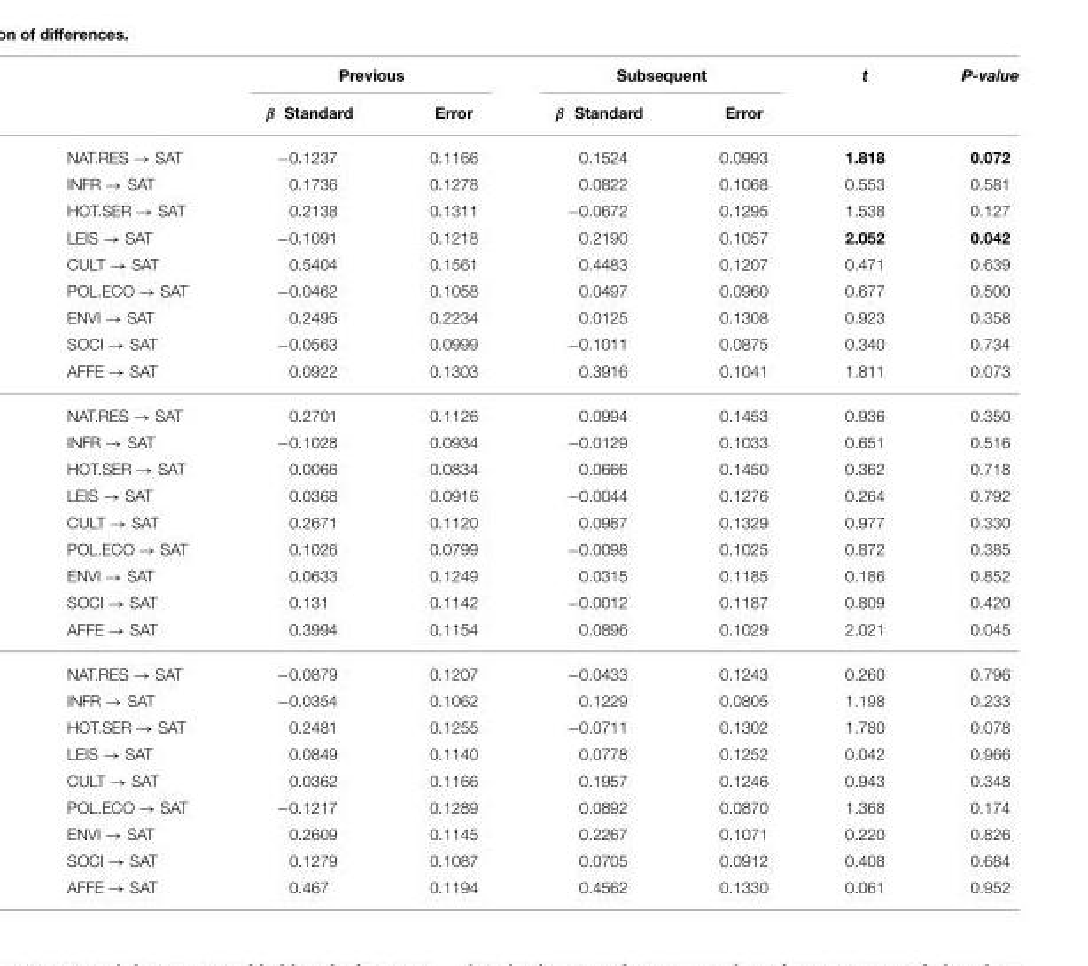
<table><thead><tr><td rowspan="2"></td><td colspan="2">Previous</td><td colspan="2">Subsequent</td><td rowspan="2">t</td><td rowspan="2">P-value</td></tr><tr><td>β Standard</td><td>Error</td><td>β Standard</td><td>Error</td></tr></thead><tbody><tr><td>NAT.RES → SAT</td><td>−0.1237</td><td>0.1166</td><td>0.1524</td><td>0.0993</td><td>1.818</td><td>0.072</td></tr><tr><td>INFR → SAT</td><td>0.1736</td><td>0.1278</td><td>0.0822</td><td>0.1068</td><td>0.553</td><td>0.581</td></tr><tr><td>HOT.SER → SAT</td><td>0.2138</td><td>0.1311</td><td>−0.0672</td><td>0.1295</td><td>1.538</td><td>0.127</td></tr><tr><td>LEIS → SAT</td><td>−0.1091</td><td>0.1218</td><td>0.2190</td><td>0.1057</td><td>2.052</td><td>0.042</td></tr><tr><td>CULT → SAT</td><td>0.5404</td><td>0.1561</td><td>0.4483</td><td>0.1207</td><td>0.471</td><td>0.639</td></tr><tr><td>POL.ECO → SAT</td><td>−0.0462</td><td>0.1058</td><td>0.0497</td><td>0.0960</td><td>0.677</td><td>0.500</td></tr><tr><td>ENVI → SAT</td><td>0.2495</td><td>0.2234</td><td>0.0125</td><td>0.1308</td><td>0.923</td><td>0.358</td></tr><tr><td>SOCI → SAT</td><td>−0.0563</td><td>0.0999</td><td>−0.1011</td><td>0.0875</td><td>0.340</td><td>0.734</td></tr><tr><td>AFFE → SAT</td><td>0.0922</td><td>0.1303</td><td>0.3916</td><td>0.1041</td><td>1.811</td><td>0.073</td></tr><tr><td>NAT.RES → SAT</td><td>0.2701</td><td>0.1126</td><td>0.0994</td><td>0.1453</td><td>0.936</td><td>0.350</td></tr><tr><td>INFR → SAT</td><td>−0.1028</td><td>0.0934</td><td>−0.0129</td><td>0.1033</td><td>0.651</td><td>0.516</td></tr><tr><td>HOT.SER → SAT</td><td>0.0066</td><td>0.0834</td><td>0.0666</td><td>0.1450</td><td>0.362</td><td>0.718</td></tr><tr><td>LEIS → SAT</td><td>0.0368</td><td>0.0916</td><td>−0.0044</td><td>0.1276</td><td>0.264</td><td>0.792</td></tr><tr><td>CULT → SAT</td><td>0.2671</td><td>0.1120</td><td>0.0987</td><td>0.1329</td><td>0.977</td><td>0.330</td></tr><tr><td>POL.ECO → SAT</td><td>0.1026</td><td>0.0799</td><td>−0.0098</td><td>0.1025</td><td>0.872</td><td>0.385</td></tr><tr><td>ENVI → SAT</td><td>0.0633</td><td>0.1249</td><td>0.0315</td><td>0.1185</td><td>0.186</td><td>0.852</td></tr><tr><td>SOCI → SAT</td><td>0.131</td><td>0.1142</td><td>−0.0012</td><td>0.1187</td><td>0.809</td><td>0.420</td></tr><tr><td>AFFE → SAT</td><td>0.3994</td><td>0.1154</td><td>0.0896</td><td>0.1029</td><td>2.021</td><td>0.045</td></tr><tr><td>NAT.RES → SAT</td><td>−0.0879</td><td>0.1207</td><td>−0.0433</td><td>0.1243</td><td>0.260</td><td>0.796</td></tr><tr><td>INFR → SAT</td><td>−0.0354</td><td>0.1062</td><td>0.1229</td><td>0.0805</td><td>1.198</td><td>0.233</td></tr><tr><td>HOT.SER → SAT</td><td>0.2481</td><td>0.1255</td><td>−0.0711</td><td>0.1302</td><td>1.780</td><td>0.078</td></tr><tr><td>LEIS → SAT</td><td>0.0849</td><td>0.1140</td><td>0.0778</td><td>0.1252</td><td>0.042</td><td>0.966</td></tr><tr><td>CULT → SAT</td><td>0.0362</td><td>0.1166</td><td>0.1957</td><td>0.1246</td><td>0.943</td><td>0.348</td></tr><tr><td>POL.ECO → SAT</td><td>−0.1217</td><td>0.1289</td><td>0.0892</td><td>0.0870</td><td>1.368</td><td>0.174</td></tr><tr><td>ENVI → SAT</td><td>0.2609</td><td>0.1145</td><td>0.2267</td><td>0.1071</td><td>0.220</td><td>0.826</td></tr><tr><td>SOCI → SAT</td><td>0.1279</td><td>0.1087</td><td>0.0705</td><td>0.0912</td><td>0.408</td><td>0.684</td></tr><tr><td>AFFE → SAT</td><td>0.467</td><td>0.1194</td><td>0.4562</td><td>0.1330</td><td>0.061</td><td>0.952</td></tr></tbody></table>